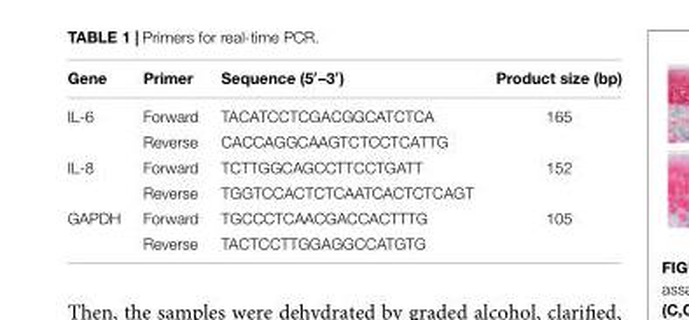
<table><thead><tr><td>Gene</td><td>Primer</td><td>Sequence (5′–3′)</td><td>Product size (bp)</td></tr></thead><tbody><tr><td rowspan="2">IL-6</td><td>Forward</td><td>TACATCCTCGACGGCATCTCA</td><td>165</td></tr><tr><td>Reverse</td><td>CACCAGGCAAGTCTCCTCATTG</td><td></td></tr><tr><td rowspan="2">IL-8</td><td>Forward</td><td>TCTTGGCAGCCTTCCTGATT</td><td>152</td></tr><tr><td>Reverse</td><td>TGGTCCACTCTCAATCACTCTCAGT</td><td></td></tr><tr><td rowspan="2">GAPDH</td><td>Forward</td><td>TGCCCTCAACGACCACTTTG</td><td>105</td></tr><tr><td>Reverse</td><td>TACTCCTTGGAGGCCATGTG</td><td></td></tr></tbody></table>